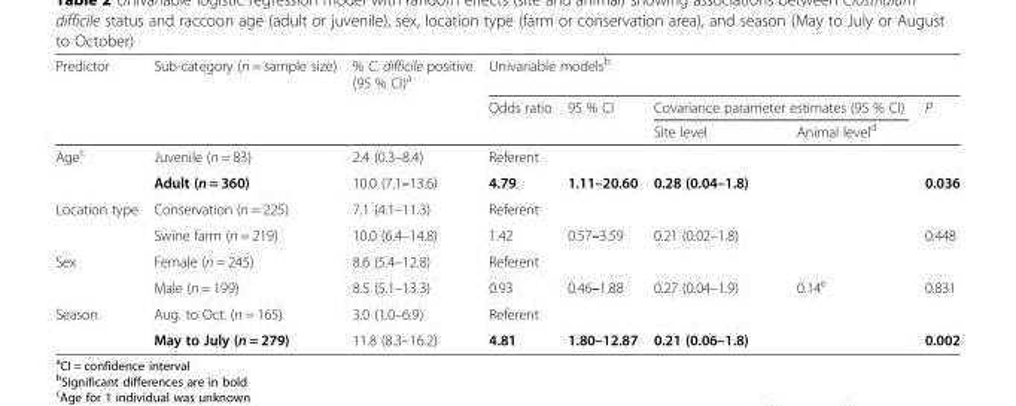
<table><thead><tr><td rowspan="3">Predictor</td><td rowspan="3">Sub-category (n = sample size)</td><td rowspan="3">% C. difficile positive (95 % CI)<sup>a</sup></td><td colspan="5">Univariable models<sup>b</sup></td></tr><tr><td rowspan="2">Odds ratio</td><td rowspan="2">95 % CI</td><td colspan="2">Covariance parameter estimates (95 % CI)</td><td rowspan="2">P</td></tr><tr><td>Site level</td><td>Animal level<sup>d</sup></td></tr></thead><tbody><tr><td rowspan="2">Age<sup>c</sup></td><td>Juvenile (n = 83)</td><td>2.4 (0.3–8.4)</td><td>Referent</td><td></td><td></td><td></td><td></td></tr><tr><td>Adult (n = 360)</td><td>10.0 (7.1–13.6)</td><td>4.79</td><td>1.11–20.60</td><td>0.28 (0.04–1.8)</td><td></td><td>0.036</td></tr><tr><td rowspan="2">Location type</td><td>Conservation (n = 225)</td><td>7.1 (4.1–11.3)</td><td>Referent</td><td></td><td></td><td></td><td></td></tr><tr><td>Swine farm (n = 219)</td><td>10.0 (6.4–14.8)</td><td>1.42</td><td>0.57–3.59</td><td>0.21 (0.02–1.8)</td><td></td><td>0.448</td></tr><tr><td rowspan="2">Sex</td><td>Female (n = 245)</td><td>8.6 (5.4–12.8)</td><td>Referent</td><td></td><td></td><td></td><td></td></tr><tr><td>Male (n = 199)</td><td>8.5 (5.1–13.3)</td><td>0.93</td><td>0.46–1.88</td><td>0.27 (0.04–1.9)</td><td>0.14<sup>e</sup></td><td>0.831</td></tr><tr><td rowspan="2">Season</td><td>Aug. to Oct. (n = 165)</td><td>3.0 (1.0–6.9)</td><td>Referent</td><td></td><td></td><td></td><td></td></tr><tr><td>May to July (n = 279)</td><td>11.8 (8.3–16.2)</td><td>4.81</td><td>1.80–12.87</td><td>0.21 (0.06–1.8)</td><td></td><td>0.002</td></tr></tbody></table>